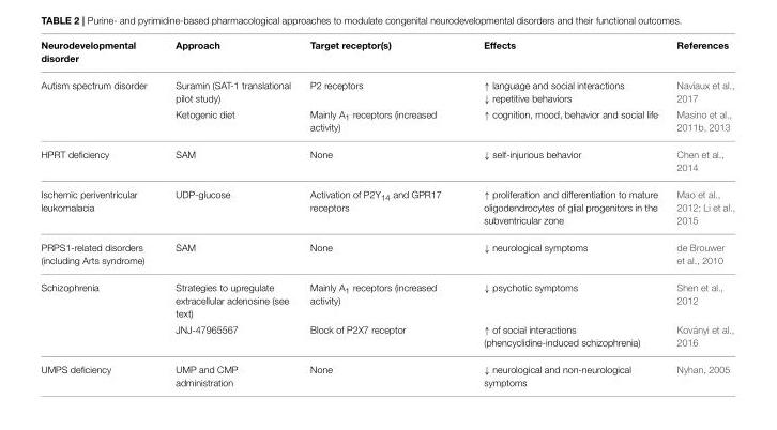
<table><thead><tr><td>Neurodevelopmental disorder</td><td>Approach</td><td>Target receptor(s)</td><td>Effects</td><td>References</td></tr></thead><tbody><tr><td rowspan="2">Autism spectrum disorder</td><td>Suramin (SAT-1 translational pilot study)</td><td>P2 receptors</td><td>↑ language and social interactions ↓ repetitive behaviors</td><td>Naviaux et al., 2017</td></tr><tr><td>Ketogenic diet</td><td>Mainly A<sub>1</sub> receptors (increased activity)</td><td>↑ cognition, mood, behavior and social life</td><td>Masino et al., 2011b, 2013</td></tr><tr><td>HPRT deficiency</td><td>SAM</td><td>None</td><td>↓ self-injurious behavior</td><td>Chen et al., 2014</td></tr><tr><td>Ischemic periventricular leukomalacia</td><td>UDP-glucose</td><td>Activation of P2Y<sub>14</sub> and GPR17 receptors</td><td>↑ proliferation and differentiation to mature oligodendrocytes of glial progenitors in the subventricular zone</td><td>Mao et al., 2012; Li et al., 2015</td></tr><tr><td>PRPS1-related disorders (including Arts syndrome)</td><td>SAM</td><td>None</td><td>↓ neurological symptoms</td><td>de Brouwer et al., 2010</td></tr><tr><td rowspan="2">Schizophrenia</td><td>Strategies to upregulate extracellular adenosine (see text)</td><td>Mainly A<sub>1</sub> receptors (increased activity)</td><td>↓ psychotic symptoms</td><td>Shen et al., 2012</td></tr><tr><td>JNJ-47965567</td><td>Block of P2X7 receptor</td><td>↑ of social interactions (phencyclidine-induced schizophrenia)</td><td>Koványi et al., 2016</td></tr><tr><td>UMPS deficiency</td><td>UMP and CMP administration</td><td>None</td><td>↓ neurological and non-neurological symptoms</td><td>Nyhan, 2005</td></tr></tbody></table>